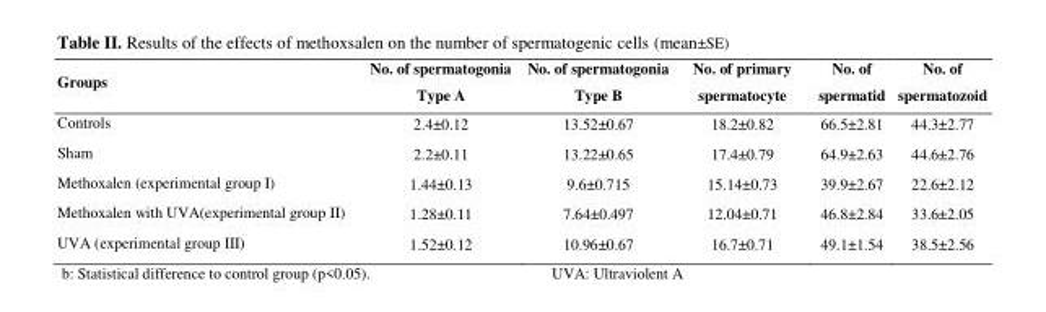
<table><tbody><tr><td>Groups</td><td>No. of spermatogonia Type A</td><td>No. of spermatogonia Type B</td><td>No. of primary spermatocyte</td><td>No. of spermatid</td><td>No. of spermatozoid</td></tr><tr><td>Controls</td><td>2.4±0.12</td><td>13.52±0.67</td><td>18.2±0.82</td><td>66.5±2.81</td><td>44.3±2.77</td></tr><tr><td>Sham</td><td>2.2±0.11</td><td>13.22±0.65</td><td>17.4±0.79</td><td>64.9±2.63</td><td>44.6±2.76</td></tr><tr><td>Methoxalen (experimental group I)</td><td>1.44±0.13</td><td>9.6±0.715</td><td>15.14±0.73</td><td>39.9±2.67</td><td>22.6±2.12</td></tr><tr><td>Methoxalen with UVA(experimental group II)</td><td>1.28±0.11</td><td>7.64±0.497</td><td>12.04±0.71</td><td>46.8±2.84</td><td>33.6±2.05</td></tr><tr><td>UVA (experimental group III)</td><td>1.52±0.12</td><td>10.96±0.67</td><td>16.7±0.71</td><td>49.1±1.54</td><td>38.5±2.56</td></tr></tbody></table>